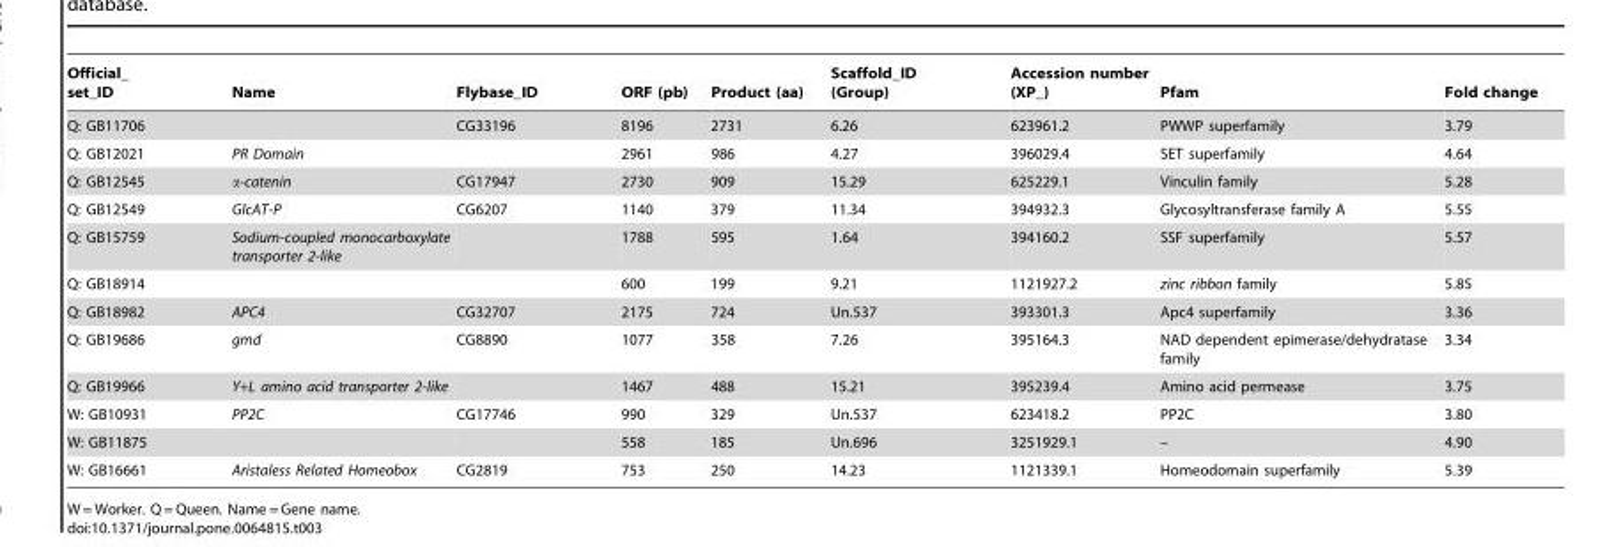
<table><thead><tr><td>Official_ set_ID</td><td>Name</td><td>Flybase_ID</td><td>ORF (pb)</td><td>Product (aa)</td><td>Scaffold_ID (Group)</td><td>Accession number (XP_)</td><td>Pfam</td><td>Fold change</td></tr></thead><tbody><tr><td>Q: GB11706</td><td></td><td>CG33196</td><td>8196</td><td>2731</td><td>6.26</td><td>623961.2</td><td>PWWP superfamily</td><td>3.79</td></tr><tr><td>Q: GB12021</td><td>PR Domain</td><td></td><td>2961</td><td>986</td><td>4.27</td><td>396029.4</td><td>SET superfamily</td><td>4.64</td></tr><tr><td>Q: GB12545</td><td>α-catenin</td><td>CG17947</td><td>2730</td><td>909</td><td>15.29</td><td>625229.1</td><td>Vinculin family</td><td>5.28</td></tr><tr><td>Q: GB12549</td><td>GlcAT-P</td><td>CG6207</td><td>1140</td><td>379</td><td>11.34</td><td>394932.3</td><td>Glycosyltransferase family A</td><td>5.55</td></tr><tr><td>Q: GB15759</td><td>Sodium-coupled monocarboxylate transporter 2-like</td><td></td><td>1788</td><td>595</td><td>1.64</td><td>394160.2</td><td>SSF superfamily</td><td>5.57</td></tr><tr><td>Q: GB18914</td><td></td><td></td><td>600</td><td>199</td><td>9.21</td><td>1121927.2</td><td>zinc ribbon family</td><td>5.85</td></tr><tr><td>Q: GB18982</td><td>APC4</td><td>CG32707</td><td>2175</td><td>724</td><td>Un.537</td><td>393301.3</td><td>Apc4 superfamily</td><td>3.36</td></tr><tr><td>Q: GB19686</td><td>gmd</td><td>CG8890</td><td>1077</td><td>358</td><td>7.26</td><td>395164.3</td><td>NAD dependent epimerase/dehydratase family</td><td>3.34</td></tr><tr><td>Q: GB19966</td><td>Y+L amino acid transporter 2-like</td><td></td><td>1467</td><td>488</td><td>15.21</td><td>395239.4</td><td>Amino acid permease</td><td>3.75</td></tr><tr><td>W: GB10931</td><td>PP2C</td><td>CG17746</td><td>990</td><td>329</td><td>Un.537</td><td>623418.2</td><td>PP2C</td><td>3.80</td></tr><tr><td>W: GB11875</td><td></td><td></td><td>558</td><td>185</td><td>Un.696</td><td>3251929.1</td><td>–</td><td>4.90</td></tr><tr><td>W: GB16661</td><td>Aristaless Related Homeobox</td><td>CG2819</td><td>753</td><td>250</td><td>14.23</td><td>1121339.1</td><td>Homeodomain superfamily</td><td>5.39</td></tr></tbody></table>